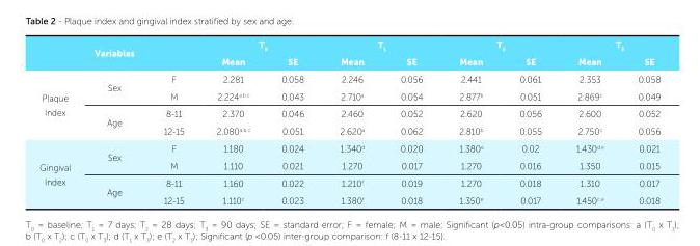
<table><thead><tr><td rowspan="2"></td><td rowspan="2">Variables</td><td rowspan="2"></td><td colspan="2">T<sub>0</sub></td><td colspan="2">T<sub>1</sub></td><td colspan="2">T<sub>2</sub></td><td colspan="2">T<sub>3</sub></td></tr><tr><td>Mean</td><td>SE</td><td>Mean</td><td>SE</td><td>Mean</td><td>SE</td><td>Mean</td><td>SE</td></tr></thead><tbody><tr><td rowspan="4">Plaque Index</td><td rowspan="2">Sex</td><td>F</td><td>2.281</td><td>0.058</td><td>2.246</td><td>0.056</td><td>2.441</td><td>0.061</td><td>2.353</td><td>0.058</td></tr><tr><td>M</td><td>2.224<sup>a.b.c</sup></td><td>0.043</td><td>2.710<sup>a</sup></td><td>0.054</td><td>2.877<sup>b</sup></td><td>0.051</td><td>2.869<sup>c</sup></td><td>0.049</td></tr><tr><td rowspan="2">Age</td><td>8-11</td><td>2.370</td><td>0.046</td><td>2.460</td><td>0.052</td><td>2.620</td><td>0.056</td><td>2.600</td><td>0.052</td></tr><tr><td>12-15</td><td>2.080<sup>a.b.c</sup></td><td>0.051</td><td>2.620<sup>a</sup></td><td>0.062</td><td>2.810<sup>b</sup></td><td>0.055</td><td>2.750<sup>c</sup></td><td>0.056</td></tr><tr><td rowspan="4">Gingival Index</td><td rowspan="2">Sex</td><td>F</td><td>1.180</td><td>0.024</td><td>1.340<sup>d</sup></td><td>0.020</td><td>1.380<sup>e</sup></td><td>0.02</td><td>1.430<sup>d.e</sup></td><td>0.021</td></tr><tr><td>M</td><td>1.110</td><td>0.021</td><td>1.270</td><td>0.017</td><td>1.270</td><td>0.016</td><td>1.350</td><td>0.015</td></tr><tr><td rowspan="2">Age</td><td>8-11</td><td>1.160</td><td>0.022</td><td>1.210<sup>f</sup></td><td>0.019</td><td>1.270</td><td>0.018</td><td>1.310</td><td>0.017</td></tr><tr><td>12-15</td><td>1.110<sup>c</sup></td><td>0.023</td><td>1.380<sup>f</sup></td><td>0.018</td><td>1.350<sup>e</sup></td><td>0.017</td><td>1.450<sup>c.e</sup></td><td>0.018</td></tr></tbody></table>